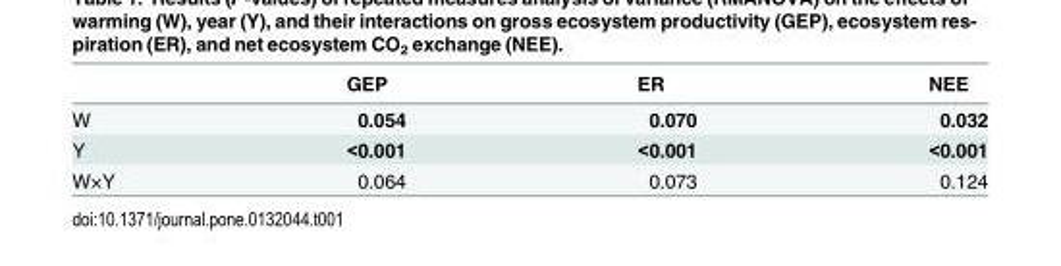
<table><thead><tr><td></td><td>GEP</td><td>ER</td><td>NEE</td></tr></thead><tbody><tr><td>W</td><td>0.054</td><td>0.070</td><td>0.032</td></tr><tr><td>Y</td><td>&lt;0.001</td><td>&lt;0.001</td><td>&lt;0.001</td></tr><tr><td>W×Y</td><td>0.064</td><td>0.073</td><td>0.124</td></tr></tbody></table>